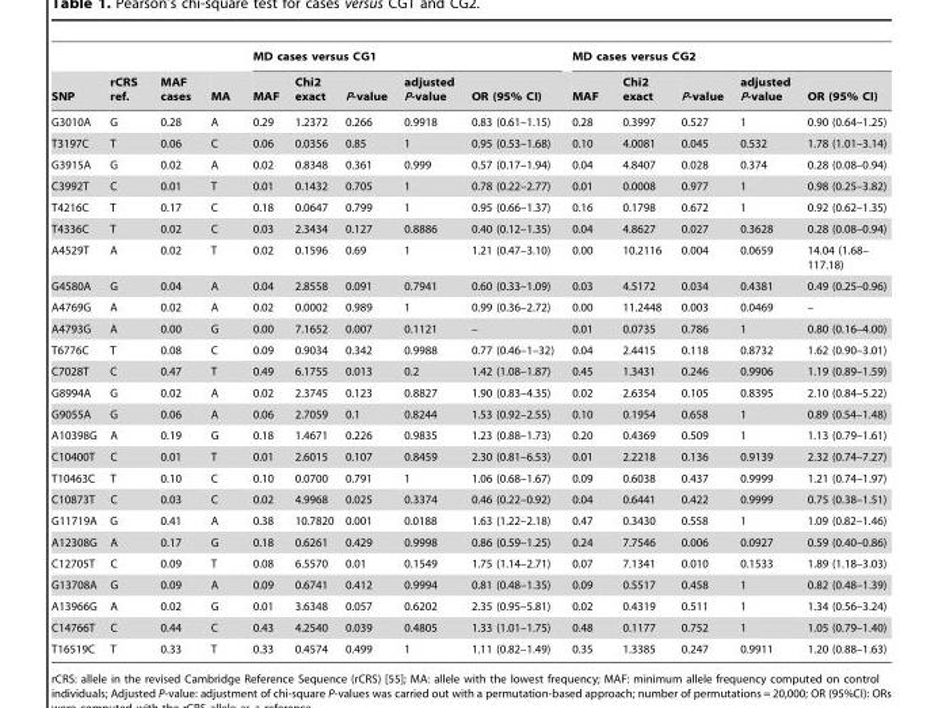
<table><thead><tr><td rowspan="2">SNP</td><td rowspan="2">rCRS ref.</td><td rowspan="2">MAF cases</td><td rowspan="2">MA</td><td colspan="5">MD cases versus CG1</td><td colspan="5">MD cases versus CG2</td></tr><tr><td>MAF</td><td>Chi2 exact</td><td>P-value</td><td>adjusted P-value</td><td>OR (95% CI)</td><td>MAF</td><td>Chi2 exact</td><td>P-value</td><td>adjusted P-value</td><td>OR (95% CI)</td></tr></thead><tbody><tr><td>G3010A</td><td>G</td><td>0.28</td><td>A</td><td>0.29</td><td>1.2372</td><td>0.266</td><td>0.9918</td><td>0.83 (0.61–1.15)</td><td>0.28</td><td>0.3997</td><td>0.527</td><td>1</td><td>0.90 (0.64–1.25)</td></tr><tr><td>T3197C</td><td>T</td><td>0.06</td><td>C</td><td>0.06</td><td>0.0356</td><td>0.85</td><td>1</td><td>0.95 (0.53–1.68)</td><td>0.10</td><td>4.0081</td><td>0.045</td><td>0.532</td><td>1.78 (1.01–3.14)</td></tr><tr><td>G3915A</td><td>G</td><td>0.02</td><td>A</td><td>0.02</td><td>0.8348</td><td>0.361</td><td>0.999</td><td>0.57 (0.17–1.94)</td><td>0.04</td><td>4.8407</td><td>0.028</td><td>0.374</td><td>0.28 (0.08–0.94)</td></tr><tr><td>C3992T</td><td>C</td><td>0.01</td><td>T</td><td>0.01</td><td>0.1432</td><td>0.705</td><td>1</td><td>0.78 (0.22–2.77)</td><td>0.01</td><td>0.0008</td><td>0.977</td><td>1</td><td>0.98 (0.25–3.82)</td></tr><tr><td>T4216C</td><td>T</td><td>0.17</td><td>C</td><td>0.18</td><td>0.0647</td><td>0.799</td><td>1</td><td>0.95 (0.66–1.37)</td><td>0.16</td><td>0.1798</td><td>0.672</td><td>1</td><td>0.92 (0.62–1.35)</td></tr><tr><td>T4336C</td><td>T</td><td>0.02</td><td>C</td><td>0.03</td><td>2.3434</td><td>0.127</td><td>0.8886</td><td>0.40 (0.12–1.35)</td><td>0.04</td><td>4.8627</td><td>0.027</td><td>0.3628</td><td>0.28 (0.08–0.94)</td></tr><tr><td>A4529T</td><td>A</td><td>0.02</td><td>T</td><td>0.02</td><td>0.1596</td><td>0.69</td><td>1</td><td>1.21 (0.47–3.10)</td><td>0.00</td><td>10.2116</td><td>0.004</td><td>0.0659</td><td>14.04 (1.68– 117.18)</td></tr><tr><td>G4580A</td><td>G</td><td>0.04</td><td>A</td><td>0.04</td><td>2.8558</td><td>0.091</td><td>0.7941</td><td>0.60 (0.33–1.09)</td><td>0.03</td><td>4.5172</td><td>0.034</td><td>0.4381</td><td>0.49 (0.25–0.96)</td></tr><tr><td>A4769G</td><td>A</td><td>0.02</td><td>A</td><td>0.02</td><td>0.0002</td><td>0.989</td><td>1</td><td>0.99 (0.36–2.72)</td><td>0.00</td><td>11.2448</td><td>0.003</td><td>0.0469</td><td>–</td></tr><tr><td>A4793G</td><td>A</td><td>0.00</td><td>G</td><td>0.00</td><td>7.1652</td><td>0.007</td><td>0.1121</td><td>–</td><td>0.01</td><td>0.0735</td><td>0.786</td><td>1</td><td>0.80 (0.16–4.00)</td></tr><tr><td>T6776C</td><td>T</td><td>0.08</td><td>C</td><td>0.09</td><td>0.9034</td><td>0.342</td><td>0.9988</td><td>0.77 (0.46–1–32)</td><td>0.04</td><td>2.4415</td><td>0.118</td><td>0.8732</td><td>1.62 (0.90–3.01)</td></tr><tr><td>C7028T</td><td>C</td><td>0.47</td><td>T</td><td>0.49</td><td>6.1755</td><td>0.013</td><td>0.2</td><td>1.42 (1.08–1.87)</td><td>0.45</td><td>1.3431</td><td>0.246</td><td>0.9906</td><td>1.19 (0.89–1.59)</td></tr><tr><td>G8994A</td><td>G</td><td>0.02</td><td>A</td><td>0.02</td><td>2.3745</td><td>0.123</td><td>0.8827</td><td>1.90 (0.83–4.35)</td><td>0.02</td><td>2.6354</td><td>0.105</td><td>0.8395</td><td>2.10 (0.84–5.22)</td></tr><tr><td>G9055A</td><td>G</td><td>0.06</td><td>A</td><td>0.06</td><td>2.7059</td><td>0.1</td><td>0.8244</td><td>1.53 (0.92–2.55)</td><td>0.10</td><td>0.1954</td><td>0.658</td><td>1</td><td>0.89 (0.54–1.48)</td></tr><tr><td>A10398G</td><td>A</td><td>0.19</td><td>G</td><td>0.18</td><td>1.4671</td><td>0.226</td><td>0.9835</td><td>1.23 (0.88–1.73)</td><td>0.20</td><td>0.4369</td><td>0.509</td><td>1</td><td>1.13 (0.79–1.61)</td></tr><tr><td>C10400T</td><td>C</td><td>0.01</td><td>T</td><td>0.01</td><td>2.6015</td><td>0.107</td><td>0.8459</td><td>2.30 (0.81–6.53)</td><td>0.01</td><td>2.2218</td><td>0.136</td><td>0.9139</td><td>2.32 (0.74–7.27)</td></tr><tr><td>T10463C</td><td>T</td><td>0.10</td><td>C</td><td>0.10</td><td>0.0700</td><td>0.791</td><td>1</td><td>1.06 (0.68–1.67)</td><td>0.09</td><td>0.6038</td><td>0.437</td><td>0.9999</td><td>1.21 (0.74–1.97)</td></tr><tr><td>C10873T</td><td>C</td><td>0.03</td><td>C</td><td>0.02</td><td>4.9968</td><td>0.025</td><td>0.3374</td><td>0.46 (0.22–0.92)</td><td>0.04</td><td>0.6441</td><td>0.422</td><td>0.9999</td><td>0.75 (0.38–1.51)</td></tr><tr><td>G11719A</td><td>G</td><td>0.41</td><td>A</td><td>0.38</td><td>10.7820</td><td>0.001</td><td>0.0188</td><td>1.63 (1.22–2.18)</td><td>0.47</td><td>0.3430</td><td>0.558</td><td>1</td><td>1.09 (0.82–1.46)</td></tr><tr><td>A12308G</td><td>A</td><td>0.17</td><td>G</td><td>0.18</td><td>0.6261</td><td>0.429</td><td>0.9998</td><td>0.86 (0.59–1.25)</td><td>0.24</td><td>7.7546</td><td>0.006</td><td>0.0927</td><td>0.59 (0.40–0.86)</td></tr><tr><td>C12705T</td><td>C</td><td>0.09</td><td>T</td><td>0.08</td><td>6.5570</td><td>0.01</td><td>0.1549</td><td>1.75 (1.14–2.71)</td><td>0.07</td><td>7.1341</td><td>0.010</td><td>0.1533</td><td>1.89 (1.18–3.03)</td></tr><tr><td>G13708A</td><td>G</td><td>0.09</td><td>A</td><td>0.09</td><td>0.6741</td><td>0.412</td><td>0.9994</td><td>0.81 (0.48–1.35)</td><td>0.09</td><td>0.5517</td><td>0.458</td><td>1</td><td>0.82 (0.48–1.39)</td></tr><tr><td>A13966G</td><td>A</td><td>0.02</td><td>G</td><td>0.01</td><td>3.6348</td><td>0.057</td><td>0.6202</td><td>2.35 (0.95–5.81)</td><td>0.02</td><td>0.4319</td><td>0.511</td><td>1</td><td>1.34 (0.56–3.24)</td></tr><tr><td>C14766T</td><td>C</td><td>0.44</td><td>C</td><td>0.43</td><td>4.2540</td><td>0.039</td><td>0.4805</td><td>1.33 (1.01–1.75)</td><td>0.48</td><td>0.1177</td><td>0.752</td><td>1</td><td>1.05 (0.79–1.40)</td></tr><tr><td>T16519C</td><td>T</td><td>0.33</td><td>T</td><td>0.33</td><td>0.4574</td><td>0.499</td><td>1</td><td>1.11 (0.82–1.49)</td><td>0.35</td><td>1.3385</td><td>0.247</td><td>0.9911</td><td>1.20 (0.88–1.63)</td></tr></tbody></table>